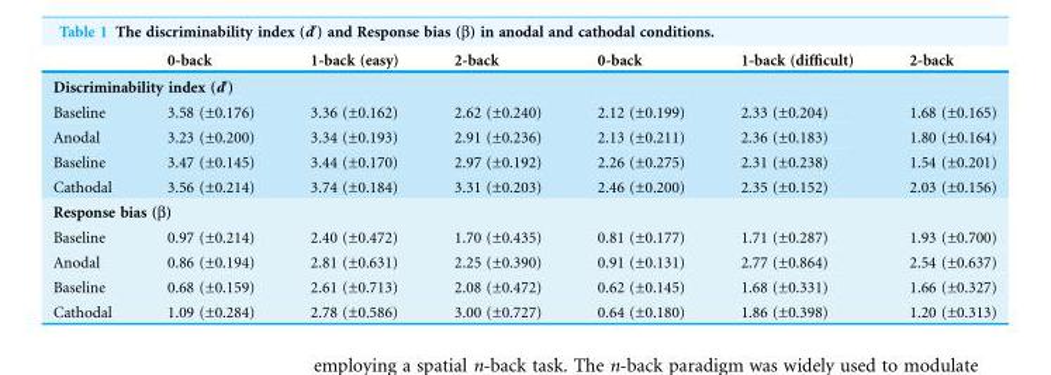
<table><thead><tr><td></td><td>0-back</td><td>1-back (easy)</td><td>2-back</td><td>0-back</td><td>1-back (difficult)</td><td>2-back</td></tr></thead><tbody><tr><td colspan="7">Discriminability index (d′)</td></tr><tr><td>Baseline</td><td>3.58 (±0.176)</td><td>3.36 (±0.162)</td><td>2.62 (±0.240)</td><td>2.12 (±0.199)</td><td>2.33 (±0.204)</td><td>1.68 (±0.165)</td></tr><tr><td>Anodal</td><td>3.23 (±0.200)</td><td>3.34 (±0.193)</td><td>2.91 (±0.236)</td><td>2.13 (±0.211)</td><td>2.36 (±0.183)</td><td>1.80 (±0.164)</td></tr><tr><td>Baseline</td><td>3.47 (±0.145)</td><td>3.44 (±0.170)</td><td>2.97 (±0.192)</td><td>2.26 (±0.275)</td><td>2.31 (±0.238)</td><td>1.54 (±0.201)</td></tr><tr><td>Cathodal</td><td>3.56 (±0.214)</td><td>3.74 (±0.184)</td><td>3.31 (±0.203)</td><td>2.46 (±0.200)</td><td>2.35 (±0.152)</td><td>2.03 (±0.156)</td></tr><tr><td colspan="7">Response bias (β)</td></tr><tr><td>Baseline</td><td>0.97 (±0.214)</td><td>2.40 (±0.472)</td><td>1.70 (±0.435)</td><td>0.81 (±0.177)</td><td>1.71 (±0.287)</td><td>1.93 (±0.700)</td></tr><tr><td>Anodal</td><td>0.86 (±0.194)</td><td>2.81 (±0.631)</td><td>2.25 (±0.390)</td><td>0.91 (±0.131)</td><td>2.77 (±0.864)</td><td>2.54 (±0.637)</td></tr><tr><td>Baseline</td><td>0.68 (±0.159)</td><td>2.61 (±0.713)</td><td>2.08 (±0.472)</td><td>0.62 (±0.145)</td><td>1.68 (±0.331)</td><td>1.66 (±0.327)</td></tr><tr><td>Cathodal</td><td>1.09 (±0.284)</td><td>2.78 (±0.586)</td><td>3.00 (±0.727)</td><td>0.64 (±0.180)</td><td>1.86 (±0.398)</td><td>1.20 (±0.313)</td></tr></tbody></table>